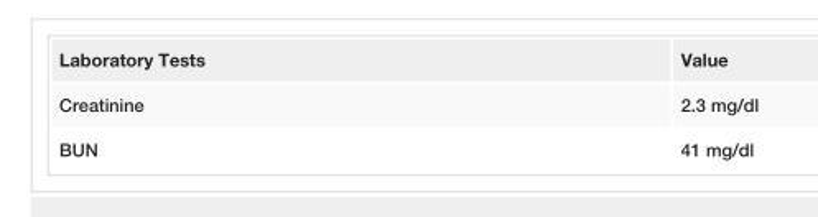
<table><tbody><tr><td>Laboratory Tests</td><td>Value</td></tr><tr><td>Creatinine</td><td>2.3 mg/dl</td></tr><tr><td>BUN</td><td>41 mg/dl</td></tr></tbody></table>